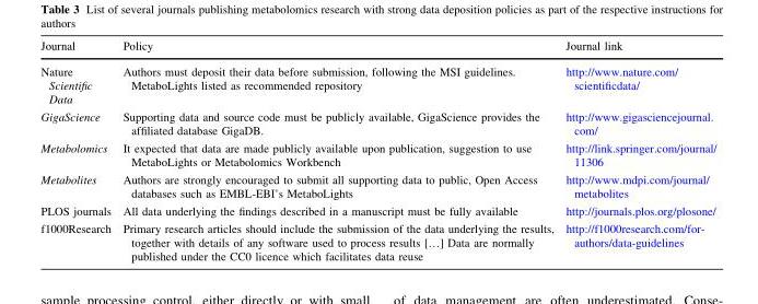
<table><thead><tr><td>Journal</td><td>Policy</td><td>Journal link</td></tr></thead><tbody><tr><td>Nature Scientific Data</td><td>Authors must deposit their data before submission, following the MSI guidelines. MetaboLights listed as recommended repository</td><td>http://www.nature.com/ scientificdata/</td></tr><tr><td>GigaScience</td><td>Supporting data and source code must be publicly available, GigaScience provides the affiliated database GigaDB.</td><td>http://www.gigasciencejournal. com/</td></tr><tr><td>Metabolomics</td><td>It expected that data are made publicly available upon publication, suggestion to use MetaboLights or Metabolomics Workbench</td><td>http://link.springer.com/journal/ 11306</td></tr><tr><td>Metabolites</td><td>Authors are strongly encouraged to submit all supporting data to public, Open Access databases such as EMBL-EBI’s MetaboLights</td><td>http://www.mdpi.com/journal/ metabolites</td></tr><tr><td>PLOS journals</td><td>All data underlying the findings described in a manuscript must be fully available</td><td>http://journals.plos.org/plosone/</td></tr><tr><td>f1000Research</td><td>Primary research articles should include the submission of the data underlying the results, together with details of any software used to process results […] Data are normally published under the CC0 licence which facilitates data reuse</td><td>http://f1000research.com/for- authors/data-guidelines</td></tr></tbody></table>